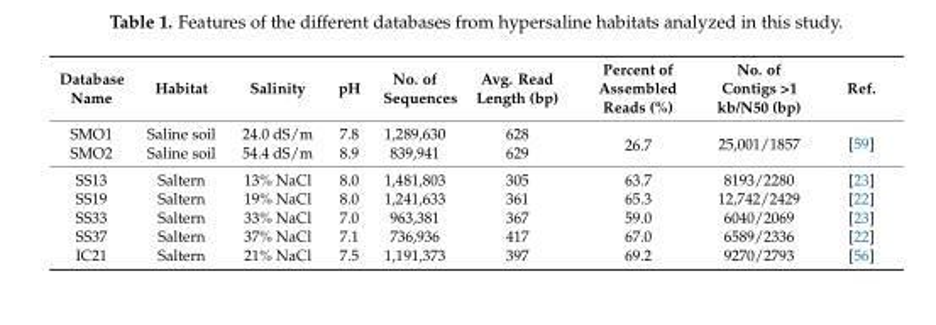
<table><thead><tr><td>Database Name</td><td>Habitat</td><td>Salinity</td><td>pH</td><td>No. of Sequences</td><td>Avg. Read Length (bp)</td><td>Percent of Assembled Reads (%)</td><td>No. of Contigs &gt;1 kb/N50 (bp)</td><td>Ref.</td></tr></thead><tbody><tr><td>SMO1</td><td>Saline soil</td><td>24.0 dS/m</td><td>7.8</td><td>1,289,630</td><td>628</td><td rowspan="2">26.7</td><td rowspan="2">25,001/1857</td><td rowspan="2">[59]</td></tr><tr><td>SMO2</td><td>Saline soil</td><td>54.4 dS/m</td><td>8.9</td><td>839,941</td><td>629</td></tr><tr><td>SS13</td><td>Saltern</td><td>13% NaCl</td><td>8.0</td><td>1,481,803</td><td>305</td><td>63.7</td><td>8193/2280</td><td>[23]</td></tr><tr><td>SS19</td><td>Saltern</td><td>19% NaCl</td><td>8.0</td><td>1,241,633</td><td>361</td><td>65.3</td><td>12,742/2429</td><td>[22]</td></tr><tr><td>SS33</td><td>Saltern</td><td>33% NaCl</td><td>7.0</td><td>963,381</td><td>367</td><td>59.0</td><td>6040/2069</td><td>[23]</td></tr><tr><td>SS37</td><td>Saltern</td><td>37% NaCl</td><td>7.1</td><td>736,936</td><td>417</td><td>67.0</td><td>6589/2336</td><td>[22]</td></tr><tr><td>IC21</td><td>Saltern</td><td>21% NaCl</td><td>7.5</td><td>1,191,373</td><td>397</td><td>69.2</td><td>9270/2793</td><td>[56]</td></tr></tbody></table>